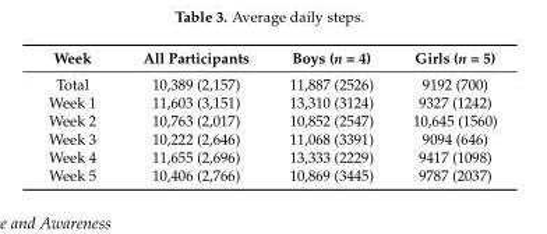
<table><thead><tr><td>Week</td><td>All Participants</td><td>Boys (n = 4)</td><td>Girls (n = 5)</td></tr></thead><tbody><tr><td>Total</td><td>10,389 (2,157)</td><td>11,887 (2526)</td><td>9192 (700)</td></tr><tr><td>Week 1</td><td>11,603 (3,151)</td><td>13,310 (3124)</td><td>9327 (1242)</td></tr><tr><td>Week 2</td><td>10,763 (2,017)</td><td>10,852 (2547)</td><td>10,645 (1560)</td></tr><tr><td>Week 3</td><td>10,222 (2,646)</td><td>11,068 (3391)</td><td>9094 (646)</td></tr><tr><td>Week 4</td><td>11,655 (2,696)</td><td>13,333 (2229)</td><td>9417 (1098)</td></tr><tr><td>Week 5</td><td>10,406 (2,766)</td><td>10,869 (3445)</td><td>9787 (2037)</td></tr></tbody></table>